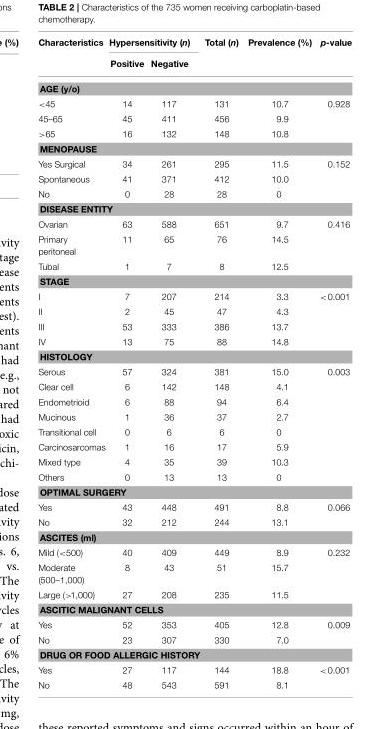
<table><thead><tr><td rowspan="2">Characteristics</td><td colspan="2">Hypersensitivity (n)</td><td rowspan="2">Total (n)</td><td rowspan="2">Prevalence (%)</td><td rowspan="2">p-value</td></tr><tr><td>Positive</td><td>Negative</td></tr></thead><tbody><tr><td colspan="6">AGE (y/o)</td></tr><tr><td>&lt;45</td><td>14</td><td>117</td><td>131</td><td>10.7</td><td>0.928</td></tr><tr><td>45–65</td><td>45</td><td>411</td><td>456</td><td>9.9</td><td></td></tr><tr><td>&gt;65</td><td>16</td><td>132</td><td>148</td><td>10.8</td><td></td></tr><tr><td colspan="6">MENOPAUSE</td></tr><tr><td>Yes Surgical</td><td>34</td><td>261</td><td>295</td><td>11.5</td><td>0.152</td></tr><tr><td>Spontaneous</td><td>41</td><td>371</td><td>412</td><td>10.0</td><td></td></tr><tr><td>No</td><td>0</td><td>28</td><td>28</td><td>0</td><td></td></tr><tr><td colspan="6">DISEASE ENTITY</td></tr><tr><td>Ovarian</td><td>63</td><td>588</td><td>651</td><td>9.7</td><td>0.416</td></tr><tr><td>Primary peritoneal</td><td>11</td><td>65</td><td>76</td><td>14.5</td><td></td></tr><tr><td>Tubal</td><td>1</td><td>7</td><td>8</td><td>12.5</td><td></td></tr><tr><td colspan="6">STAGE</td></tr><tr><td>I</td><td>7</td><td>207</td><td>214</td><td>3.3</td><td>&lt;0.001</td></tr><tr><td>II</td><td>2</td><td>45</td><td>47</td><td>4.3</td><td></td></tr><tr><td>III</td><td>53</td><td>333</td><td>386</td><td>13.7</td><td></td></tr><tr><td>IV</td><td>13</td><td>75</td><td>88</td><td>14.8</td><td></td></tr><tr><td colspan="6">HISTOLOGY</td></tr><tr><td>Serous</td><td>57</td><td>324</td><td>381</td><td>15.0</td><td>0.003</td></tr><tr><td>Clear cell</td><td>6</td><td>142</td><td>148</td><td>4.1</td><td></td></tr><tr><td>Endometrioid</td><td>6</td><td>88</td><td>94</td><td>6.4</td><td></td></tr><tr><td>Mucinous</td><td>1</td><td>36</td><td>37</td><td>2.7</td><td></td></tr><tr><td>Transitional cell</td><td>0</td><td>6</td><td>6</td><td>0</td><td></td></tr><tr><td>Carcinosarcomas</td><td>1</td><td>16</td><td>17</td><td>5.9</td><td></td></tr><tr><td>Mixed type</td><td>4</td><td>35</td><td>39</td><td>10.3</td><td></td></tr><tr><td>Others</td><td>0</td><td>13</td><td>13</td><td>0</td><td></td></tr><tr><td colspan="6">OPTIMAL SURGERY</td></tr><tr><td>Yes</td><td>43</td><td>448</td><td>491</td><td>8.8</td><td>0.066</td></tr><tr><td>No</td><td>32</td><td>212</td><td>244</td><td>13.1</td><td></td></tr><tr><td colspan="6">ASCITES (ml)</td></tr><tr><td>Mild (&lt;500)</td><td>40</td><td>409</td><td>449</td><td>8.9</td><td>0.232</td></tr><tr><td>Moderate (500–1,000)</td><td>8</td><td>43</td><td>51</td><td>15.7</td><td></td></tr><tr><td>Large (&gt;1,000)</td><td>27</td><td>208</td><td>235</td><td>11.5</td><td></td></tr><tr><td colspan="6">ASCITIC MALIGNANT CELLS</td></tr><tr><td>Yes</td><td>52</td><td>353</td><td>405</td><td>12.8</td><td>0.009</td></tr><tr><td>No</td><td>23</td><td>307</td><td>330</td><td>7.0</td><td></td></tr><tr><td colspan="6">DRUG OR FOOD ALLERGIC HISTORY</td></tr><tr><td>Yes</td><td>27</td><td>117</td><td>144</td><td>18.8</td><td>&lt;0.001</td></tr><tr><td>No</td><td>48</td><td>543</td><td>591</td><td>8.1</td><td></td></tr></tbody></table>